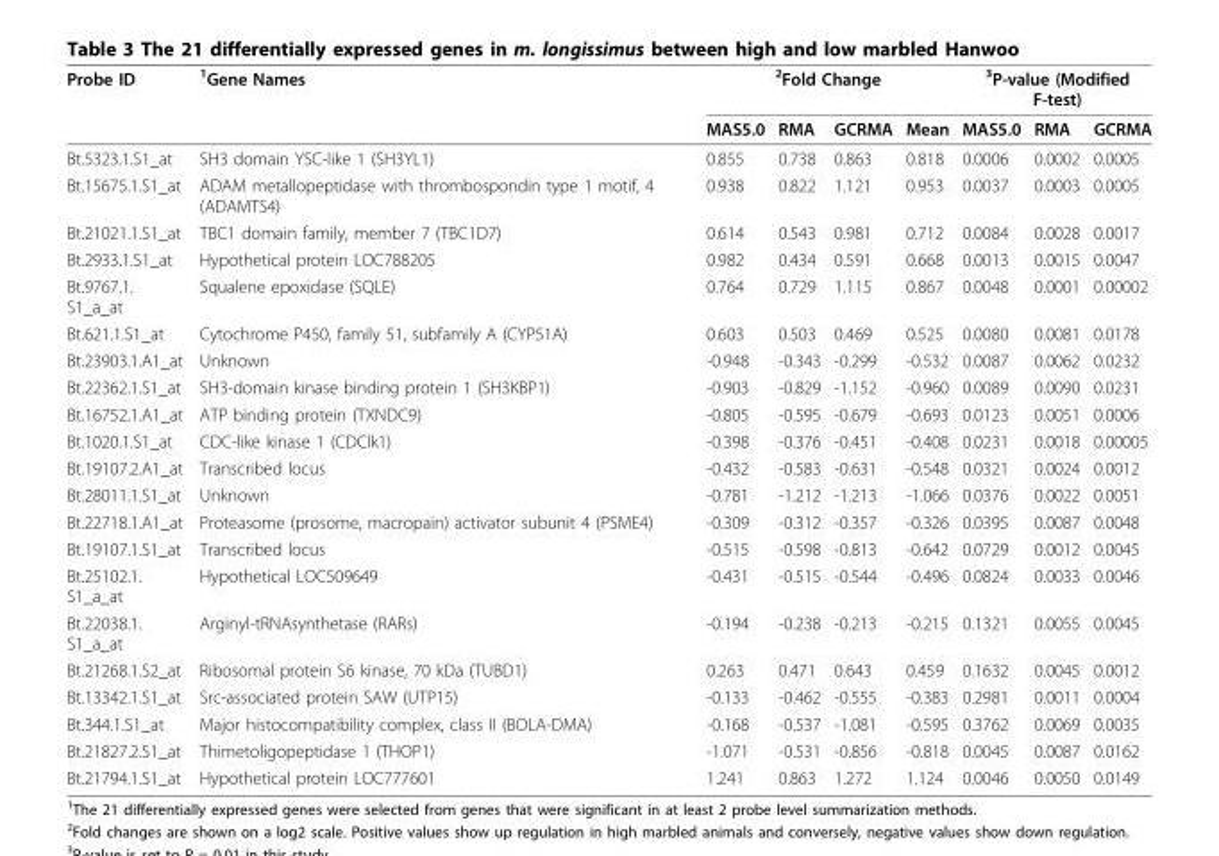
<table><thead><tr><td rowspan="2">Probe ID</td><td rowspan="2"><sup>1</sup>Gene Names</td><td colspan="4"><sup>2</sup>Fold Change</td><td colspan="3"><sup>3</sup>P-value (Modified F-test)</td></tr><tr><td>MAS5.0</td><td>RMA</td><td>GCRMA</td><td>Mean</td><td>MAS5.0</td><td>RMA</td><td>GCRMA</td></tr></thead><tbody><tr><td>Bt.5323.1.S1_at</td><td>SH3 domain YSC-like 1 (SH3YL1)</td><td>0.855</td><td>0.738</td><td>0.863</td><td>0.818</td><td>0.0006</td><td>0.0002</td><td>0.0005</td></tr><tr><td>Bt.15675.1.S1_at</td><td>ADAM metallopeptidase with thrombospondin type 1 motif, 4 (ADAMTS4)</td><td>0.938</td><td>0.822</td><td>1.121</td><td>0.953</td><td>0.0037</td><td>0.0003</td><td>0.0005</td></tr><tr><td>Bt.21021.1.S1_at</td><td>TBC1 domain family, member 7 (TBC1D7)</td><td>0.614</td><td>0.543</td><td>0.981</td><td>0.712</td><td>0.0084</td><td>0.0028</td><td>0.0017</td></tr><tr><td>Bt.2933.1.S1_at</td><td>Hypothetical protein LOC788205</td><td>0.982</td><td>0.434</td><td>0.591</td><td>0.668</td><td>0.0013</td><td>0.0015</td><td>0.0047</td></tr><tr><td>Bt.9767.1. S1_a_at</td><td>Squalene epoxidase (SQLE)</td><td>0.764</td><td>0.729</td><td>1.115</td><td>0.867</td><td>0.0048</td><td>0.0001</td><td>0.00002</td></tr><tr><td>Bt.621.1.S1_at</td><td>Cytochrome P450, family 51, subfamily A (CYP51A)</td><td>0.603</td><td>0.503</td><td>0.469</td><td>0.525</td><td>0.0080</td><td>0.0081</td><td>0.0178</td></tr><tr><td>Bt.23903.1.A1_at</td><td>Unknown</td><td>-0.948</td><td>-0.343</td><td>-0.299</td><td>-0.532</td><td>0.0087</td><td>0.0062</td><td>0.0232</td></tr><tr><td>Bt.22362.1.S1_at</td><td>SH3-domain kinase binding protein 1 (SH3KBP1)</td><td>-0.903</td><td>-0.829</td><td>-1.152</td><td>-0.960</td><td>0.0089</td><td>0.0090</td><td>0.0231</td></tr><tr><td>Bt.16752.1.A1_at</td><td>ATP binding protein (TXNDC9)</td><td>-0.805</td><td>-0.595</td><td>-0.679</td><td>-0.693</td><td>0.0123</td><td>0.0051</td><td>0.0006</td></tr><tr><td>Bt.1020.1.S1_at</td><td>CDC-like kinase 1 (CDClk1)</td><td>-0.398</td><td>-0.376</td><td>-0.451</td><td>-0.408</td><td>0.0231</td><td>0.0018</td><td>0.00005</td></tr><tr><td>Bt.19107.2.A1_at</td><td>Transcribed locus</td><td>-0.432</td><td>-0.583</td><td>-0.631</td><td>-0.548</td><td>0.0321</td><td>0.0024</td><td>0.0012</td></tr><tr><td>Bt.28011.1.S1_at</td><td>Unknown</td><td>-0.781</td><td>-1.212</td><td>-1.213</td><td>-1.066</td><td>0.0376</td><td>0.0022</td><td>0.0051</td></tr><tr><td>Bt.22718.1.A1_at</td><td>Proteasome (prosome, macropain) activator subunit 4 (PSME4)</td><td>-0.309</td><td>-0.312</td><td>-0.357</td><td>-0.326</td><td>0.0395</td><td>0.0087</td><td>0.0048</td></tr><tr><td>Bt.19107.1.S1_at</td><td>Transcribed locus</td><td>-0.515</td><td>-0.598</td><td>-0.813</td><td>-0.642</td><td>0.0729</td><td>0.0012</td><td>0.0045</td></tr><tr><td>Bt.25102.1. S1_a_at</td><td>Hypothetical LOC509649</td><td>-0.431</td><td>-0.515</td><td>-0.544</td><td>-0.496</td><td>0.0824</td><td>0.0033</td><td>0.0046</td></tr><tr><td>Bt.22038.1. S1_a_at</td><td>Arginyl-tRNAsynthetase (RARs)</td><td>-0.194</td><td>-0.238</td><td>-0.213</td><td>-0.215</td><td>0.1321</td><td>0.0055</td><td>0.0045</td></tr><tr><td>Bt.21268.1.S2_at</td><td>Ribosomal protein S6 kinase, 70 kDa (TUBD1)</td><td>0.263</td><td>0.471</td><td>0.643</td><td>0.459</td><td>0.1632</td><td>0.0045</td><td>0.0012</td></tr><tr><td>Bt.13342.1.S1_at</td><td>Src-associated protein SAW (UTP15)</td><td>-0.133</td><td>-0.462</td><td>-0.555</td><td>-0.383</td><td>0.2981</td><td>0.0011</td><td>0.0004</td></tr><tr><td>Bt.344.1.S1_at</td><td>Major histocompatibility complex, class II (BOLA-DMA)</td><td>-0.168</td><td>-0.537</td><td>-1.081</td><td>-0.595</td><td>0.3762</td><td>0.0069</td><td>0.0035</td></tr><tr><td>Bt.21827.2.S1_at</td><td>Thimetoligopeptidase 1 (THOP1)</td><td>-1.071</td><td>-0.531</td><td>-0.856</td><td>-0.818</td><td>0.0045</td><td>0.0087</td><td>0.0162</td></tr><tr><td>Bt.21794.1.S1_at</td><td>Hypothetical protein LOC777601</td><td>1.241</td><td>0.863</td><td>1.272</td><td>1.124</td><td>0.0046</td><td>0.0050</td><td>0.0149</td></tr></tbody></table>